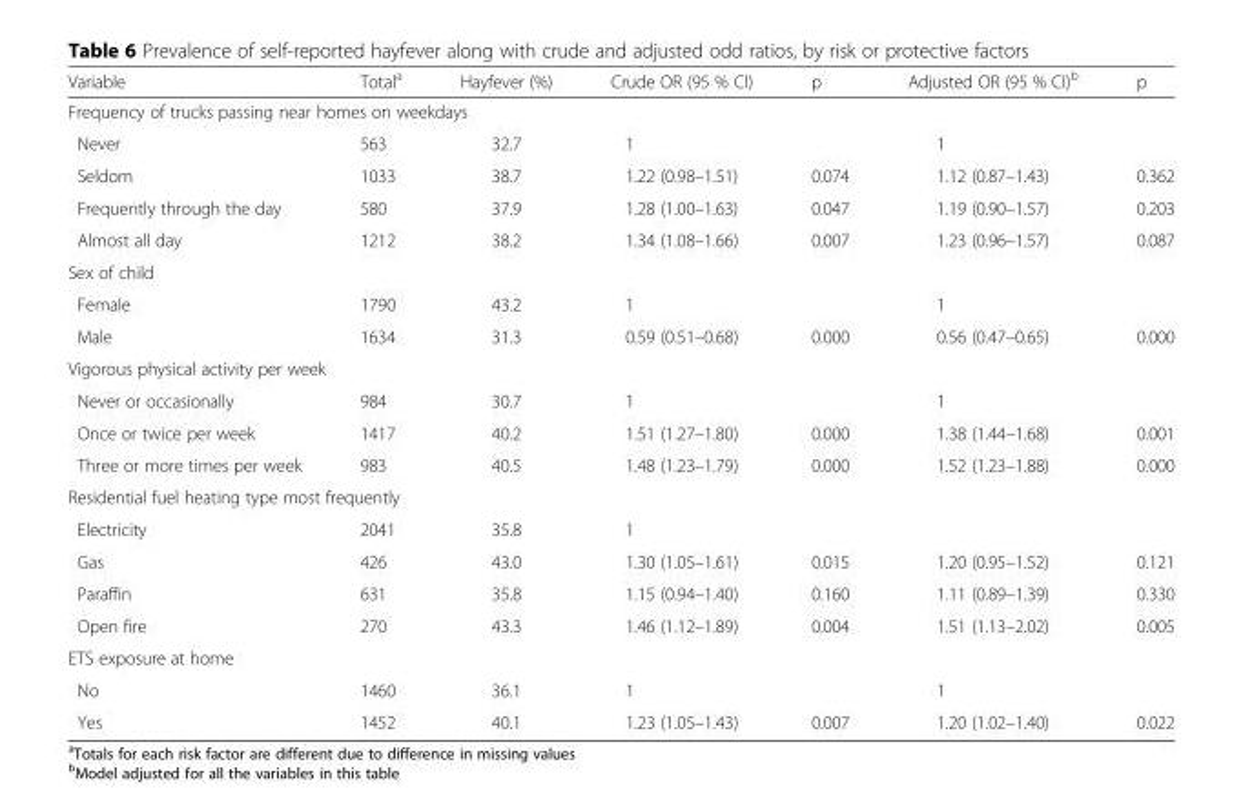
<table><thead><tr><td>Variable</td><td>Total<sup>a</sup></td><td>Hayfever (%)</td><td>Crude OR (95 % CI)</td><td>p</td><td>Adjusted OR (95 % CI)<sup>b</sup></td><td>p</td></tr></thead><tbody><tr><td colspan="7">Frequency of trucks passing near homes on weekdays</td></tr><tr><td>Never</td><td>563</td><td>32.7</td><td>1</td><td></td><td>1</td><td></td></tr><tr><td>Seldom</td><td>1033</td><td>38.7</td><td>1.22 (0.98–1.51)</td><td>0.074</td><td>1.12 (0.87–1.43)</td><td>0.362</td></tr><tr><td>Frequently through the day</td><td>580</td><td>37.9</td><td>1.28 (1.00–1.63)</td><td>0.047</td><td>1.19 (0.90–1.57)</td><td>0.203</td></tr><tr><td>Almost all day</td><td>1212</td><td>38.2</td><td>1.34 (1.08–1.66)</td><td>0.007</td><td>1.23 (0.96–1.57)</td><td>0.087</td></tr><tr><td colspan="7">Sex of child</td></tr><tr><td>Female</td><td>1790</td><td>43.2</td><td>1</td><td></td><td>1</td><td></td></tr><tr><td>Male</td><td>1634</td><td>31.3</td><td>0.59 (0.51–0.68)</td><td>0.000</td><td>0.56 (0.47–0.65)</td><td>0.000</td></tr><tr><td colspan="7">Vigorous physical activity per week</td></tr><tr><td>Never or occasionally</td><td>984</td><td>30.7</td><td>1</td><td></td><td>1</td><td></td></tr><tr><td>Once or twice per week</td><td>1417</td><td>40.2</td><td>1.51 (1.27–1.80)</td><td>0.000</td><td>1.38 (1.44–1.68)</td><td>0.001</td></tr><tr><td>Three or more times per week</td><td>983</td><td>40.5</td><td>1.48 (1.23–1.79)</td><td>0.000</td><td>1.52 (1.23–1.88)</td><td>0.000</td></tr><tr><td colspan="7">Residential fuel heating type most frequently</td></tr><tr><td>Electricity</td><td>2041</td><td>35.8</td><td>1</td><td></td><td></td><td></td></tr><tr><td>Gas</td><td>426</td><td>43.0</td><td>1.30 (1.05–1.61)</td><td>0.015</td><td>1.20 (0.95–1.52)</td><td>0.121</td></tr><tr><td>Paraffin</td><td>631</td><td>35.8</td><td>1.15 (0.94–1.40)</td><td>0.160</td><td>1.11 (0.89–1.39)</td><td>0.330</td></tr><tr><td>Open fire</td><td>270</td><td>43.3</td><td>1.46 (1.12–1.89)</td><td>0.004</td><td>1.51 (1.13–2.02)</td><td>0.005</td></tr><tr><td colspan="7">ETS exposure at home</td></tr><tr><td>No</td><td>1460</td><td>36.1</td><td>1</td><td></td><td>1</td><td></td></tr><tr><td>Yes</td><td>1452</td><td>40.1</td><td>1.23 (1.05–1.43)</td><td>0.007</td><td>1.20 (1.02–1.40)</td><td>0.022</td></tr></tbody></table>